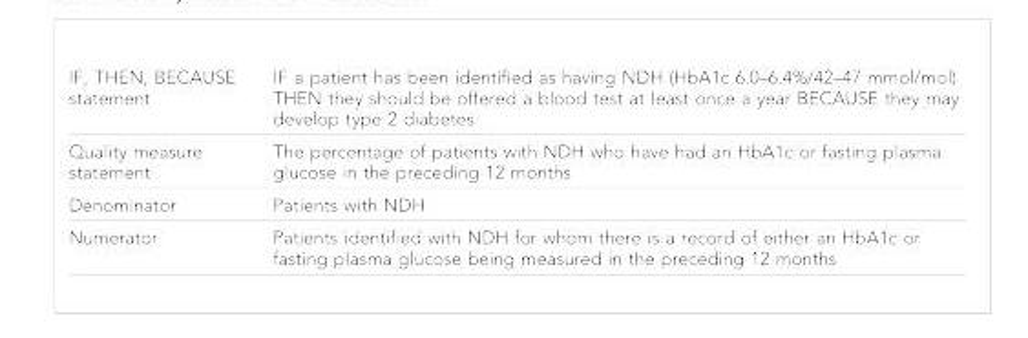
<table><tbody><tr><td>IF, THEN, BECAUSE statement</td><td>IF a patient has been identified as having NDH (HbA1c 6.0–6.4%/42–47 mmol/mol) THEN they should be offered a blood test at least once a year BECAUSE they may develop type 2 diabetes</td></tr><tr><td>Quality measure statement</td><td>The percentage of patients with NDH who have had an HbA1c or fasting plasma glucose in the preceding 12 months</td></tr><tr><td>Denominator</td><td>Patients with NDH</td></tr><tr><td>Numerator</td><td>Patients identified with NDH for whom there is a record of either an HbA1c or fasting plasma glucose being measured in the preceding 12 months</td></tr></tbody></table>